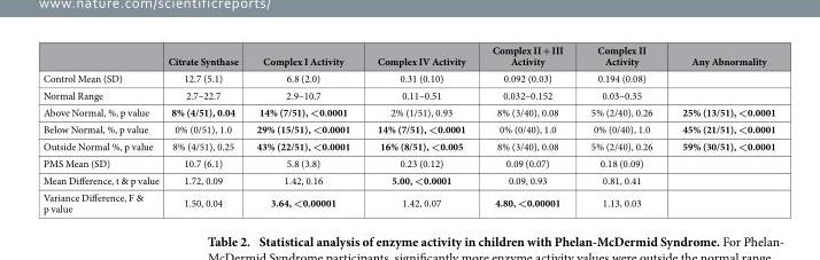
<table><thead><tr><td></td><td>Citrate Synthase</td><td>Complex I Activity</td><td>Complex IV Activity</td><td>Complex II + III Activity</td><td>Complex II Activity</td><td>Any Abnormality</td></tr></thead><tbody><tr><td>Control Mean (SD)</td><td>12.7 (5.1)</td><td>6.8 (2.0)</td><td>0.31 (0.10)</td><td>0.092 (0.03)</td><td>0.194 (0.08)</td><td></td></tr><tr><td>Normal Range</td><td>2.7–22.7</td><td>2.9–10.7</td><td>0.11–0.51</td><td>0.032–0.152</td><td>0.03–0.35</td><td></td></tr><tr><td>Above Normal, %, p value</td><td>8% (4/51), 0.04</td><td>14% (7/51), &lt;0.0001</td><td>2% (1/51), 0.93</td><td>8% (3/40), 0.08</td><td>5% (2/40), 0.26</td><td>25% (13/51), &lt;0.0001</td></tr><tr><td>Below Normal, %, p value</td><td>0% (0/51), 1.0</td><td>29% (15/51), &lt;0.0001</td><td>14% (7/51), &lt;0.0001</td><td>0% (0/40), 1.0</td><td>0% (0/40), 1.0</td><td>45% (21/51), &lt;0.0001</td></tr><tr><td>Outside Normal %, p value</td><td>8% (4/51), 0.25</td><td>43% (22/51), &lt;0.0001</td><td>16% (8/51), &lt;0.005</td><td>8% (3/40), 0.08</td><td>5% (2/40), 0.26</td><td>59% (30/51), &lt;0.0001</td></tr><tr><td>PMS Mean (SD)</td><td>10.7 (6.1)</td><td>5.8 (3.8)</td><td>0.23 (0.12)</td><td>0.09 (0.07)</td><td>0.18 (0.09)</td><td></td></tr><tr><td>Mean Difference, t &amp; p value</td><td>1.72, 0.09</td><td>1.42, 0.16</td><td>5.00, &lt;0.0001</td><td>0.09, 0.93</td><td>0.81, 0.41</td><td></td></tr><tr><td>Variance Difference, F &amp; p value</td><td>1.50, 0.04</td><td>3.64, &lt;0.00001</td><td>1.42, 0.07</td><td>4.80, &lt;0.00001</td><td>1.13, 0.03</td><td></td></tr></tbody></table>